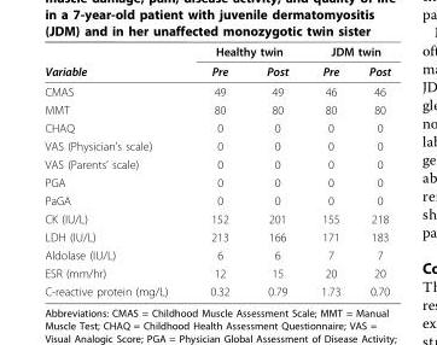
<table><thead><tr><td rowspan="2">Variable</td><td colspan="2">Healthy twin</td><td colspan="2">JDM twin</td></tr><tr><td>Pre</td><td>Post</td><td>Pre</td><td>Post</td></tr></thead><tbody><tr><td>CMAS</td><td>49</td><td>49</td><td>46</td><td>46</td></tr><tr><td>MMT</td><td>80</td><td>80</td><td>80</td><td>80</td></tr><tr><td>CHAQ</td><td>0</td><td>0</td><td>0</td><td>0</td></tr><tr><td>VAS (Physician’s scale)</td><td>0</td><td>0</td><td>0</td><td>0</td></tr><tr><td>VAS (Parents’ scale)</td><td>0</td><td>0</td><td>0</td><td>0</td></tr><tr><td>PGA</td><td>0</td><td>0</td><td>0</td><td>0</td></tr><tr><td>PaGA</td><td>0</td><td>0</td><td>0</td><td>0</td></tr><tr><td>CK (IU/L)</td><td>152</td><td>201</td><td>155</td><td>218</td></tr><tr><td>LDH (IU/L)</td><td>213</td><td>166</td><td>171</td><td>183</td></tr><tr><td>Aldolase (IU/L)</td><td>6</td><td>6</td><td>7</td><td>7</td></tr><tr><td>ESR (mm/hr)</td><td>12</td><td>15</td><td>20</td><td>20</td></tr><tr><td>C-reactive protein (mg/L)</td><td>0.32</td><td>0.79</td><td>1.73</td><td>0.70</td></tr></tbody></table>